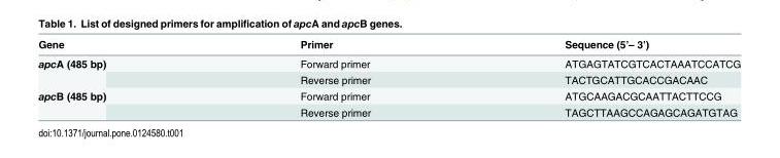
<table><thead><tr><td>Gene</td><td>Primer</td><td>Sequence (5’– 3’)</td></tr></thead><tbody><tr><td rowspan="2">apcA (485 bp)</td><td>Forward primer</td><td>ATGAGTATCGTCACTAAATCCATCG</td></tr><tr><td>Reverse primer</td><td>TACTGCATTGCACCGACAAC</td></tr><tr><td rowspan="2">apcB (485 bp)</td><td>Forward primer</td><td>ATGCAAGACGCAATTACTTCCG</td></tr><tr><td>Reverse primer</td><td>TAGCTTAAGCCAGAGCAGATGTAG</td></tr></tbody></table>